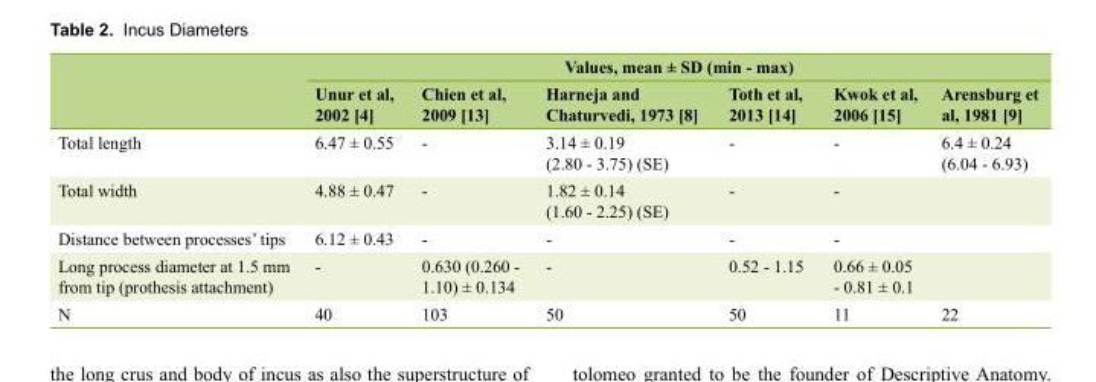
<table><thead><tr><td rowspan="2"></td><td colspan="6">Values, mean ± SD (min - max)</td></tr><tr><td>Unur et al, 2002 [4]</td><td>Chien et al, 2009 [13]</td><td>Harneja and Chaturvedi, 1973 [8]</td><td>Toth et al, 2013 [14]</td><td>Kwok et al, 2006 [15]</td><td>Arensburg et al, 1981 [9]</td></tr></thead><tbody><tr><td>Total length</td><td>6.47 ± 0.55</td><td>-</td><td>3.14 ± 0.19 (2.80 - 3.75) (SE)</td><td>-</td><td>-</td><td>6.4 ± 0.24 (6.04 - 6.93)</td></tr><tr><td>Total width</td><td>4.88 ± 0.47</td><td>-</td><td>1.82 ± 0.14 (1.60 - 2.25) (SE)</td><td>-</td><td>-</td><td></td></tr><tr><td>Distance between processes’ tips</td><td>6.12 ± 0.43</td><td>-</td><td>-</td><td>-</td><td>-</td><td></td></tr><tr><td>Long process diameter at 1.5 mm from tip (prothesis attachment)</td><td>-</td><td>0.630 (0.260 - 1.10) ± 0.134</td><td>-</td><td>0.52 - 1.15</td><td>0.66 ± 0.05 - 0.81 ± 0.1</td><td></td></tr><tr><td>N</td><td>40</td><td>103</td><td>50</td><td>50</td><td>11</td><td>22</td></tr></tbody></table>